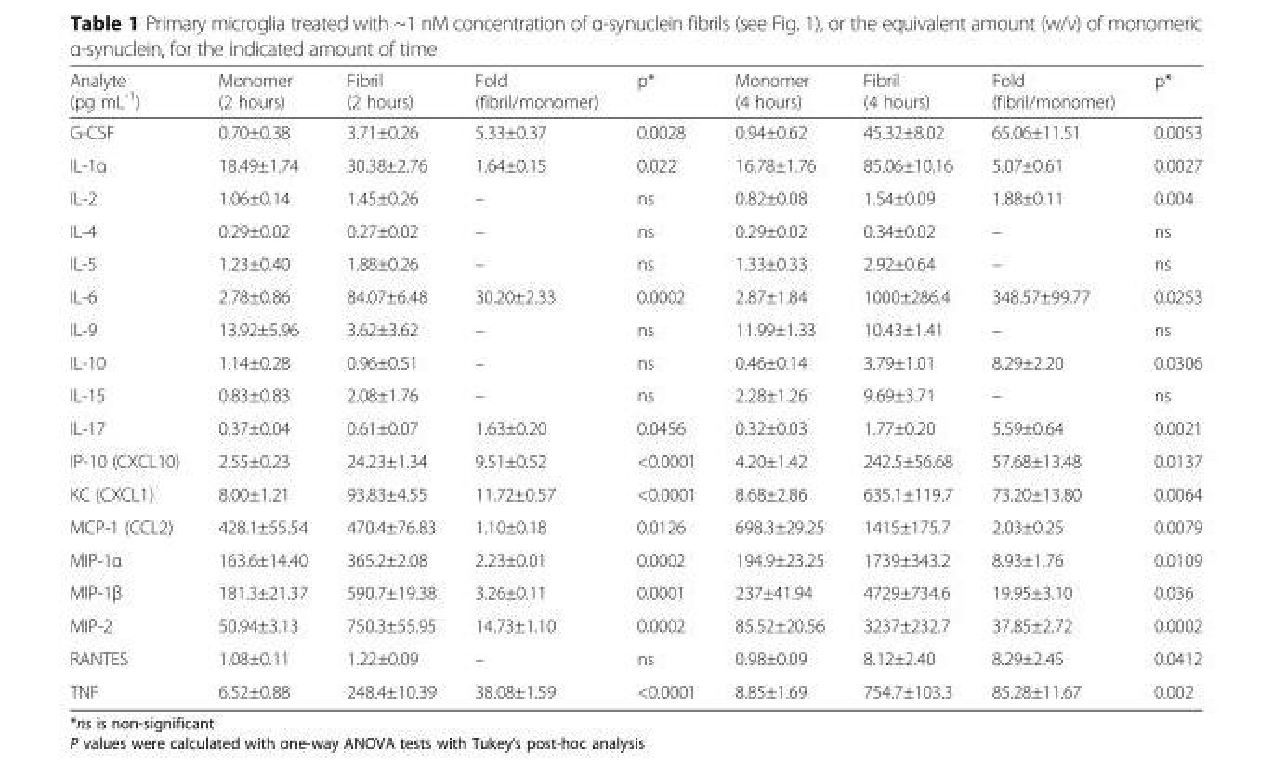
<table><thead><tr><td>Analyte (pg mL<sup>-1</sup>)</td><td>Monomer (2 hours)</td><td>Fibril (2 hours)</td><td>Fold (fibril/monomer)</td><td>p*</td><td>Monomer (4 hours)</td><td>Fibril (4 hours)</td><td>Fold (fibril/monomer)</td><td>p*</td></tr></thead><tbody><tr><td>G-CSF</td><td>0.70±0.38</td><td>3.71±0.26</td><td>5.33±0.37</td><td>0.0028</td><td>0.94±0.62</td><td>45.32±8.02</td><td>65.06±11.51</td><td>0.0053</td></tr><tr><td>IL-1α</td><td>18.49±1.74</td><td>30.38±2.76</td><td>1.64±0.15</td><td>0.022</td><td>16.78±1.76</td><td>85.06±10.16</td><td>5.07±0.61</td><td>0.0027</td></tr><tr><td>IL-2</td><td>1.06±0.14</td><td>1.45±0.26</td><td>–</td><td>ns</td><td>0.82±0.08</td><td>1.54±0.09</td><td>1.88±0.11</td><td>0.004</td></tr><tr><td>IL-4</td><td>0.29±0.02</td><td>0.27±0.02</td><td>–</td><td>ns</td><td>0.29±0.02</td><td>0.34±0.02</td><td>–</td><td>ns</td></tr><tr><td>IL-5</td><td>1.23±0.40</td><td>1.88±0.26</td><td>–</td><td>ns</td><td>1.33±0.33</td><td>2.92±0.64</td><td>–</td><td>ns</td></tr><tr><td>IL-6</td><td>2.78±0.86</td><td>84.07±6.48</td><td>30.20±2.33</td><td>0.0002</td><td>2.87±1.84</td><td>1000±286.4</td><td>348.57±99.77</td><td>0.0253</td></tr><tr><td>IL-9</td><td>13.92±5.96</td><td>3.62±3.62</td><td>–</td><td>ns</td><td>11.99±1.33</td><td>10.43±1.41</td><td>–</td><td>ns</td></tr><tr><td>IL-10</td><td>1.14±0.28</td><td>0.96±0.51</td><td>–</td><td>ns</td><td>0.46±0.14</td><td>3.79±1.01</td><td>8.29±2.20</td><td>0.0306</td></tr><tr><td>IL-15</td><td>0.83±0.83</td><td>2.08±1.76</td><td>–</td><td>ns</td><td>2.28±1.26</td><td>9.69±3.71</td><td>–</td><td>ns</td></tr><tr><td>IL-17</td><td>0.37±0.04</td><td>0.61±0.07</td><td>1.63±0.20</td><td>0.0456</td><td>0.32±0.03</td><td>1.77±0.20</td><td>5.59±0.64</td><td>0.0021</td></tr><tr><td>IP-10 (CXCL10)</td><td>2.55±0.23</td><td>24.23±1.34</td><td>9.51±0.52</td><td>&lt;0.0001</td><td>4.20±1.42</td><td>242.5±56.68</td><td>57.68±13.48</td><td>0.0137</td></tr><tr><td>KC (CXCL1)</td><td>8.00±1.21</td><td>93.83±4.55</td><td>11.72±0.57</td><td>&lt;0.0001</td><td>8.68±2.86</td><td>635.1±119.7</td><td>73.20±13.80</td><td>0.0064</td></tr><tr><td>MCP-1 (CCL2)</td><td>428.1±55.54</td><td>470.4±76.83</td><td>1.10±0.18</td><td>0.0126</td><td>698.3±29.25</td><td>1415±175.7</td><td>2.03±0.25</td><td>0.0079</td></tr><tr><td>MIP-1α</td><td>163.6±14.40</td><td>365.2±2.08</td><td>2.23±0.01</td><td>0.0002</td><td>194.9±23.25</td><td>1739±343.2</td><td>8.93±1.76</td><td>0.0109</td></tr><tr><td>MIP-1β</td><td>181.3±21.37</td><td>590.7±19.38</td><td>3.26±0.11</td><td>0.0001</td><td>237±41.94</td><td>4729±734.6</td><td>19.95±3.10</td><td>0.036</td></tr><tr><td>MIP-2</td><td>50.94±3.13</td><td>750.3±55.95</td><td>14.73±1.10</td><td>0.0002</td><td>85.52±20.56</td><td>3237±232.7</td><td>37.85±2.72</td><td>0.0002</td></tr><tr><td>RANTES</td><td>1.08±0.11</td><td>1.22±0.09</td><td>–</td><td>ns</td><td>0.98±0.09</td><td>8.12±2.40</td><td>8.29±2.45</td><td>0.0412</td></tr><tr><td>TNF</td><td>6.52±0.88</td><td>248.4±10.39</td><td>38.08±1.59</td><td>&lt;0.0001</td><td>8.85±1.69</td><td>754.7±103.3</td><td>85.28±11.67</td><td>0.002</td></tr></tbody></table>